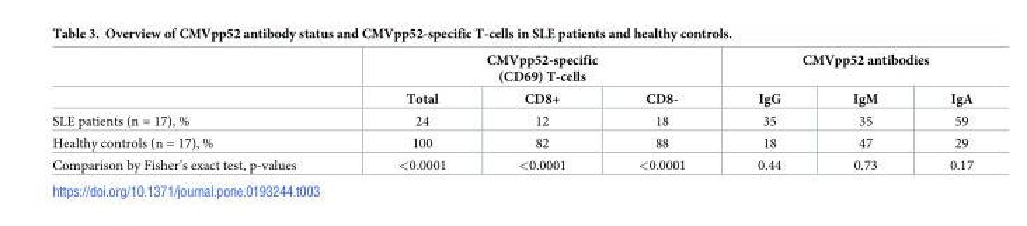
<table><thead><tr><td rowspan="2"></td><td colspan="3">CMVpp52-specific (CD69) T-cells</td><td colspan="3">CMVpp52 antibodies</td></tr><tr><td>Total</td><td>CD8+</td><td>CD8-</td><td>IgG</td><td>IgM</td><td>IgA</td></tr></thead><tbody><tr><td>SLE patients (n = 17), %</td><td>24</td><td>12</td><td>18</td><td>35</td><td>35</td><td>59</td></tr><tr><td>Healthy controls (n = 17), %</td><td>100</td><td>82</td><td>88</td><td>18</td><td>47</td><td>29</td></tr><tr><td>Comparison by Fisher’s exact test, p-values</td><td>&lt;0.0001</td><td>&lt;0.0001</td><td>&lt;0.0001</td><td>0.44</td><td>0.73</td><td>0.17</td></tr></tbody></table>